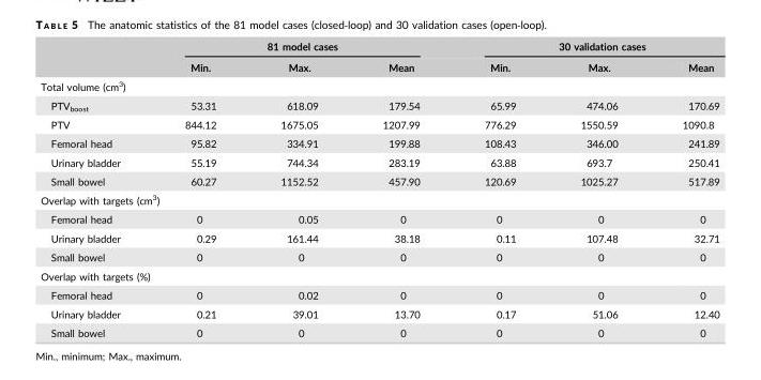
<table><thead><tr><td rowspan="2"></td><td colspan="3">81 model cases</td><td colspan="3">30 validation cases</td></tr><tr><td>Min.</td><td>Max.</td><td>Mean</td><td>Min.</td><td>Max.</td><td>Mean</td></tr></thead><tbody><tr><td colspan="7">Total volume (cm<sup>3</sup>)</td></tr><tr><td>PTV<sub>boost</sub></td><td>53.31</td><td>618.09</td><td>179.54</td><td>65.99</td><td>474.06</td><td>170.69</td></tr><tr><td>PTV</td><td>844.12</td><td>1675.05</td><td>1207.99</td><td>776.29</td><td>1550.59</td><td>1090.8</td></tr><tr><td>Femoral head</td><td>95.82</td><td>334.91</td><td>199.88</td><td>108.43</td><td>346.00</td><td>241.89</td></tr><tr><td>Urinary bladder</td><td>55.19</td><td>744.34</td><td>283.19</td><td>63.88</td><td>693.7</td><td>250.41</td></tr><tr><td>Small bowel</td><td>60.27</td><td>1152.52</td><td>457.90</td><td>120.69</td><td>1025.27</td><td>517.89</td></tr><tr><td colspan="7">Overlap with targets (cm<sup>3</sup>)</td></tr><tr><td>Femoral head</td><td>0</td><td>0.05</td><td>0</td><td>0</td><td>0</td><td>0</td></tr><tr><td>Urinary bladder</td><td>0.29</td><td>161.44</td><td>38.18</td><td>0.11</td><td>107.48</td><td>32.71</td></tr><tr><td>Small bowel</td><td>0</td><td>0</td><td>0</td><td>0</td><td>0</td><td>0</td></tr><tr><td colspan="7">Overlap with targets (%)</td></tr><tr><td>Femoral head</td><td>0</td><td>0.02</td><td>0</td><td>0</td><td>0</td><td>0</td></tr><tr><td>Urinary bladder</td><td>0.21</td><td>39.01</td><td>13.70</td><td>0.17</td><td>51.06</td><td>12.40</td></tr><tr><td>Small bowel</td><td>0</td><td>0</td><td>0</td><td>0</td><td>0</td><td>0</td></tr></tbody></table>